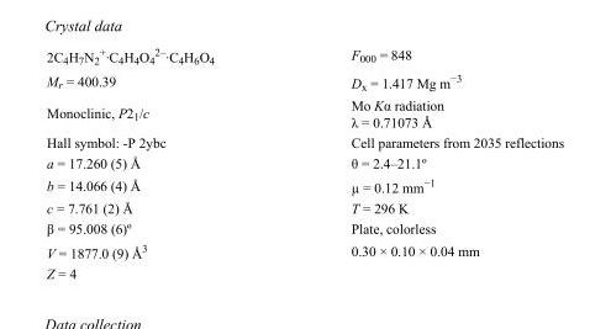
<table><tbody><tr><td>2C<sub>4</sub>H<sub>7</sub>N<sub>2</sub> <sup>+</sup>·C<sub>4</sub>H<sub>4</sub>O<sub>4</sub> <sup>2–</sup>·C<sub>4</sub>H<sub>6</sub>O<sub>4</sub></td><td>F000 = 848</td></tr><tr><td>M<sub>r</sub> = 400.39</td><td>D<sub>x</sub> = 1.417 Mg m<sup>−3</sup></td></tr><tr><td>Monoclinic, P2<sub>1</sub>/c</td><td>Mo Kα radiation λ = 0.71073 Å</td></tr><tr><td>Hall symbol: -P 2ybc</td><td>Cell parameters from 2035 reflections</td></tr><tr><td>a = 17.260 (5) Å</td><td>θ = 2.4–21.1º</td></tr><tr><td>b = 14.066 (4) Å</td><td>µ = 0.12 mm<sup>−1</sup></td></tr><tr><td>c = 7.761 (2) Å</td><td>T = 296 K</td></tr><tr><td>β = 95.008 (6)º</td><td>Plate, colorless</td></tr><tr><td>V = 1877.0 (9) Å<sup>3</sup></td><td>0.30 × 0.10 × 0.04 mm</td></tr><tr><td>Z = 4</td><td></td></tr></tbody></table>